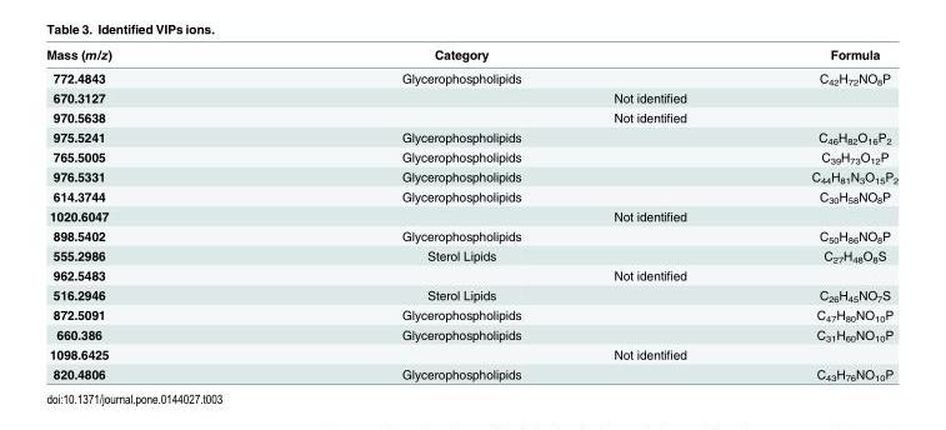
<table><thead><tr><td>Mass (m/z)</td><td>Category</td><td>Formula</td></tr></thead><tbody><tr><td>772.4843</td><td>Glycerophospholipids</td><td>C<sub>42</sub>H<sub>72</sub>NO<sub>8</sub>P</td></tr><tr><td>670.3127</td><td colspan="2">Not identified</td></tr><tr><td>970.5638</td><td colspan="2">Not identified</td></tr><tr><td>975.5241</td><td>Glycerophospholipids</td><td>C<sub>46</sub>H<sub>82</sub>O<sub>16</sub>P<sub>2</sub></td></tr><tr><td>765.5005</td><td>Glycerophospholipids</td><td>C<sub>39</sub>H<sub>73</sub>O<sub>12</sub>P</td></tr><tr><td>976.5331</td><td>Glycerophospholipids</td><td>C<sub>44</sub>H<sub>81</sub>N<sub>3</sub>O<sub>15</sub>P<sub>2</sub></td></tr><tr><td>614.3744</td><td>Glycerophospholipids</td><td>C<sub>30</sub>H<sub>58</sub>NO<sub>8</sub>P</td></tr><tr><td>1020.6047</td><td colspan="2">Not identified</td></tr><tr><td>898.5402</td><td>Glycerophospholipids</td><td>C<sub>50</sub>H<sub>86</sub>NO<sub>8</sub>P</td></tr><tr><td>555.2986</td><td>Sterol Lipids</td><td>C<sub>27</sub>H<sub>48</sub>O<sub>8</sub>S</td></tr><tr><td>962.5483</td><td colspan="2">Not identified</td></tr><tr><td>516.2946</td><td>Sterol Lipids</td><td>C<sub>26</sub>H<sub>45</sub>NO<sub>7</sub>S</td></tr><tr><td>872.5091</td><td>Glycerophospholipids</td><td>C<sub>47</sub>H<sub>80</sub>NO<sub>10</sub>P</td></tr><tr><td>660.386</td><td>Glycerophospholipids</td><td>C<sub>31</sub>H<sub>60</sub>NO<sub>10</sub>P</td></tr><tr><td>1098.6425</td><td colspan="2">Not identified</td></tr><tr><td>820.4806</td><td>Glycerophospholipids</td><td>C<sub>43</sub>H<sub>76</sub>NO<sub>10</sub>P</td></tr></tbody></table>